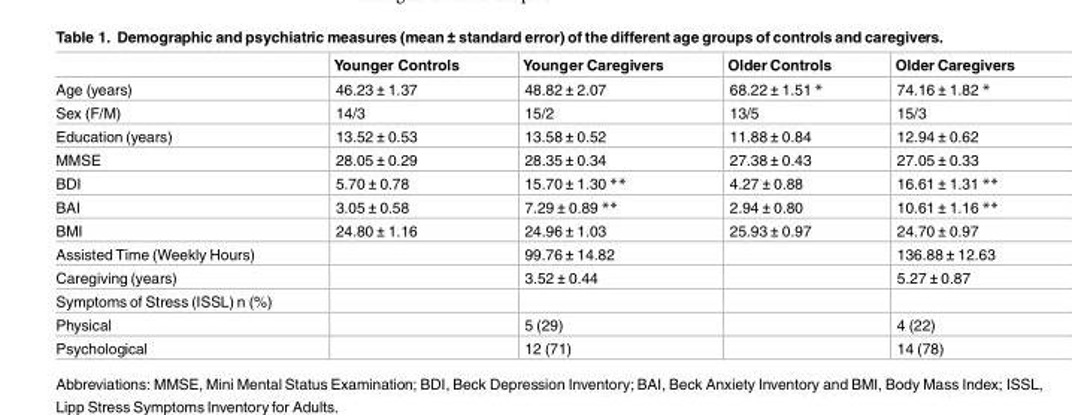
<table><thead><tr><td></td><td>Younger Controls</td><td>Younger Caregivers</td><td>Older Controls</td><td>Older Caregivers</td></tr></thead><tbody><tr><td>Age (years)</td><td>46.23 ± 1.37</td><td>48.82 ± 2.07</td><td>68.22 ± 1.51 *</td><td>74.16 ± 1.82 *</td></tr><tr><td>Sex (F/M)</td><td>14/3</td><td>15/2</td><td>13/5</td><td>15/3</td></tr><tr><td>Education (years)</td><td>13.52 ± 0.53</td><td>13.58 ± 0.52</td><td>11.88 ± 0.84</td><td>12.94 ± 0.62</td></tr><tr><td>MMSE</td><td>28.05 ± 0.29</td><td>28.35 ± 0.34</td><td>27.38 ± 0.43</td><td>27.05 ± 0.33</td></tr><tr><td>BDI</td><td>5.70 ± 0.78</td><td>15.70 ± 1.30 **</td><td>4.27 ± 0.88</td><td>16.61 ± 1.31 **</td></tr><tr><td>BAI</td><td>3.05 ± 0.58</td><td>7.29 ± 0.89 **</td><td>2.94 ± 0.80</td><td>10.61 ± 1.16 **</td></tr><tr><td>BMI</td><td>24.80 ± 1.16</td><td>24.96 ± 1.03</td><td>25.93 ± 0.97</td><td>24.70 ± 0.97</td></tr><tr><td>Assisted Time (Weekly Hours)</td><td></td><td>99.76 ± 14.82</td><td></td><td>136.88 ± 12.63</td></tr><tr><td>Caregiving (years)</td><td></td><td>3.52 ± 0.44</td><td></td><td>5.27 ± 0.87</td></tr><tr><td colspan="5">Symptoms of Stress (ISSL) n (%)</td></tr><tr><td>Physical</td><td></td><td>5 (29)</td><td></td><td>4 (22)</td></tr><tr><td>Psychological</td><td></td><td>12 (71)</td><td></td><td>14 (78)</td></tr></tbody></table>